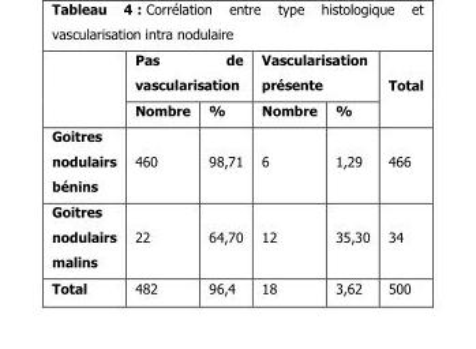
<table><thead><tr><td rowspan="2"></td><td colspan="2">Pas de vascularisation</td><td colspan="2">Vascularisation présente</td><td rowspan="2">Total</td></tr><tr><td>Nombre</td><td>%</td><td>Nombre</td><td>%</td></tr></thead><tbody><tr><td>Goitres nodulairs bénins</td><td>460</td><td>98,71</td><td>6</td><td>1,29</td><td>466</td></tr><tr><td>Goitres nodulairs malins</td><td>22</td><td>64,70</td><td>12</td><td>35,30</td><td>34</td></tr><tr><td>Total</td><td>482</td><td>96,4</td><td>18</td><td>3,62</td><td>500</td></tr></tbody></table>